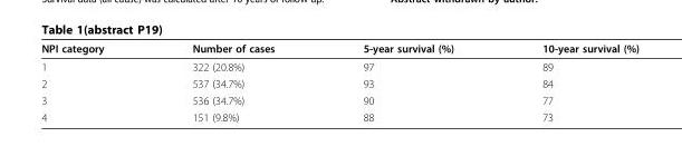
<table><thead><tr><td>NPI category</td><td>Number of cases</td><td>5-year survival (%)</td><td>10-year survival (%)</td></tr></thead><tbody><tr><td>1</td><td>322 (20.8%)</td><td>97</td><td>89</td></tr><tr><td>2</td><td>537 (34.7%)</td><td>93</td><td>84</td></tr><tr><td>3</td><td>536 (34.7%)</td><td>90</td><td>77</td></tr><tr><td>4</td><td>151 (9.8%)</td><td>88</td><td>73</td></tr></tbody></table>